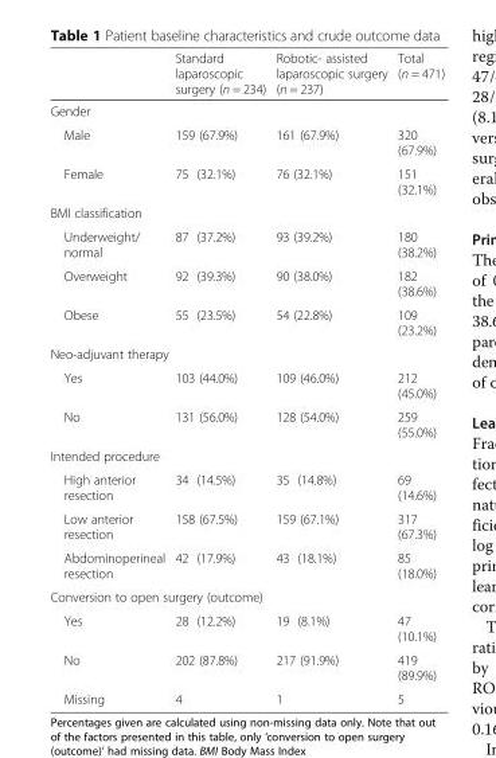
<table><thead><tr><td></td><td>Standard laparoscopic surgery (n = 234)</td><td>Robotic- assisted laparoscopic surgery (n = 237)</td><td>Total (n = 471)</td></tr></thead><tbody><tr><td colspan="4">Gender</td></tr><tr><td>Male</td><td>159 (67.9%)</td><td>161 (67.9%)</td><td>320 (67.9%)</td></tr><tr><td>Female</td><td>75 (32.1%)</td><td>76 (32.1%)</td><td>151 (32.1%)</td></tr><tr><td colspan="4">BMI classification</td></tr><tr><td>Underweight/ normal</td><td>87 (37.2%)</td><td>93 (39.2%)</td><td>180 (38.2%)</td></tr><tr><td>Overweight</td><td>92 (39.3%)</td><td>90 (38.0%)</td><td>182 (38.6%)</td></tr><tr><td>Obese</td><td>55 (23.5%)</td><td>54 (22.8%)</td><td>109 (23.2%)</td></tr><tr><td colspan="4">Neo-adjuvant therapy</td></tr><tr><td>Yes</td><td>103 (44.0%)</td><td>109 (46.0%)</td><td>212 (45.0%)</td></tr><tr><td>No</td><td>131 (56.0%)</td><td>128 (54.0%)</td><td>259 (55.0%)</td></tr><tr><td colspan="4">Intended procedure</td></tr><tr><td>High anterior resection</td><td>34 (14.5%)</td><td>35 (14.8%)</td><td>69 (14.6%)</td></tr><tr><td>Low anterior resection</td><td>158 (67.5%)</td><td>159 (67.1%)</td><td>317 (67.3%)</td></tr><tr><td>Abdominoperineal resection</td><td>42 (17.9%)</td><td>43 (18.1%)</td><td>85 (18.0%)</td></tr><tr><td colspan="4">Conversion to open surgery (outcome)</td></tr><tr><td>Yes</td><td>28 (12.2%)</td><td>19 (8.1%)</td><td>47 (10.1%)</td></tr><tr><td>No</td><td>202 (87.8%)</td><td>217 (91.9%)</td><td>419 (89.9%)</td></tr><tr><td>Missing</td><td>4</td><td>1</td><td>5</td></tr></tbody></table>